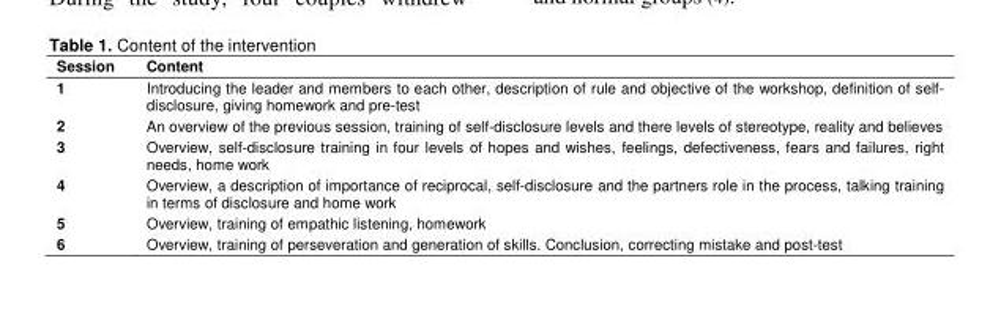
<table><thead><tr><td>Session</td><td>Content</td></tr></thead><tbody><tr><td>1</td><td>Introducing the leader and members to each other, description of rule and objective of the workshop, definition of self- disclosure, giving homework and pre-test</td></tr><tr><td>2</td><td>An overview of the previous session, training of self-disclosure levels and there levels of stereotype, reality and believes</td></tr><tr><td>3</td><td>Overview, self-disclosure training in four levels of hopes and wishes, feelings, defectiveness, fears and failures, right needs, home work</td></tr><tr><td>4</td><td>Overview, a description of importance of reciprocal, self-disclosure and the partners role in the process, talking training in terms of disclosure and home work</td></tr><tr><td>5</td><td>Overview, training of empathic listening, homework</td></tr><tr><td>6</td><td>Overview, training of perseveration and generation of skills. Conclusion, correcting mistake and post-test</td></tr></tbody></table>